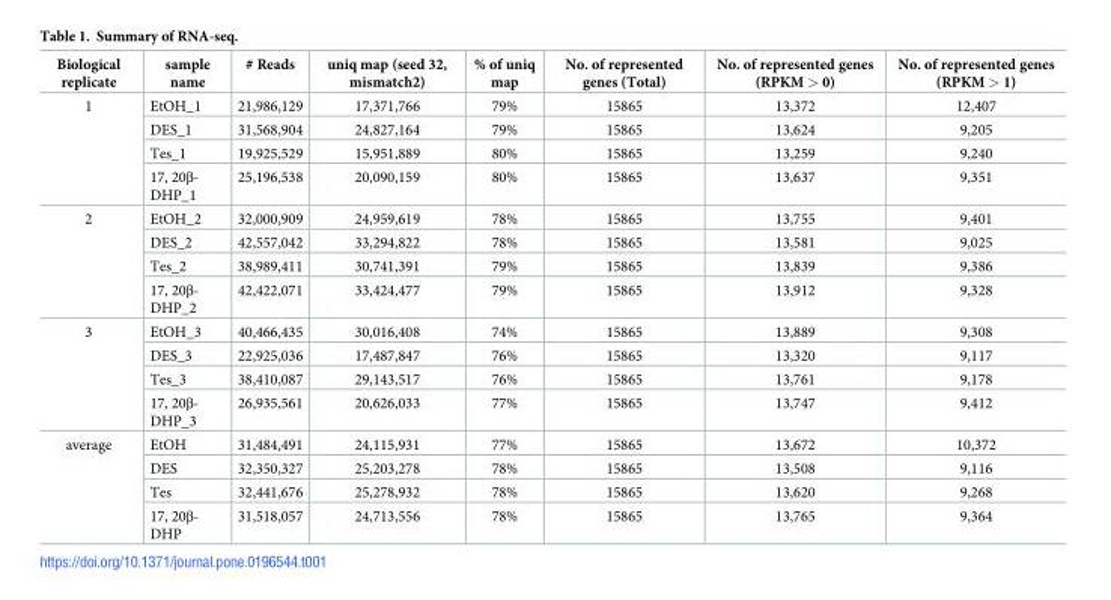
<table><thead><tr><td>Biological replicate</td><td>sample name</td><td># Reads</td><td>uniq map (seed 32, mismatch2)</td><td>% of uniq map</td><td>No. of represented genes (Total)</td><td>No. of represented genes (RPKM &gt; 0)</td><td>No. of represented genes (RPKM &gt; 1)</td></tr></thead><tbody><tr><td rowspan="4">1</td><td>EtOH_1</td><td>21,986,129</td><td>17,371,766</td><td>79%</td><td>15865</td><td>13,372</td><td>12,407</td></tr><tr><td>DES_1</td><td>31,568,904</td><td>24,827,164</td><td>79%</td><td>15865</td><td>13,624</td><td>9,205</td></tr><tr><td>Tes_1</td><td>19,925,529</td><td>15,951,889</td><td>80%</td><td>15865</td><td>13,259</td><td>9,240</td></tr><tr><td>17, 20β- DHP_1</td><td>25,196,538</td><td>20,090,159</td><td>80%</td><td>15865</td><td>13,637</td><td>9,351</td></tr><tr><td rowspan="4">2</td><td>EtOH_2</td><td>32,000,909</td><td>24,959,619</td><td>78%</td><td>15865</td><td>13,755</td><td>9,401</td></tr><tr><td>DES_2</td><td>42,557,042</td><td>33,294,822</td><td>78%</td><td>15865</td><td>13,581</td><td>9,025</td></tr><tr><td>Tes_2</td><td>38,989,411</td><td>30,741,391</td><td>79%</td><td>15865</td><td>13,839</td><td>9,386</td></tr><tr><td>17, 20β- DHP_2</td><td>42,422,071</td><td>33,424,477</td><td>79%</td><td>15865</td><td>13,912</td><td>9,328</td></tr><tr><td rowspan="4">3</td><td>EtOH_3</td><td>40,466,435</td><td>30,016,408</td><td>74%</td><td>15865</td><td>13,889</td><td>9,308</td></tr><tr><td>DES_3</td><td>22,925,036</td><td>17,487,847</td><td>76%</td><td>15865</td><td>13,320</td><td>9,117</td></tr><tr><td>Tes_3</td><td>38,410,087</td><td>29,143,517</td><td>76%</td><td>15865</td><td>13,761</td><td>9,178</td></tr><tr><td>17, 20β- DHP_3</td><td>26,935,561</td><td>20,626,033</td><td>77%</td><td>15865</td><td>13,747</td><td>9,412</td></tr><tr><td rowspan="4">average</td><td>EtOH</td><td>31,484,491</td><td>24,115,931</td><td>77%</td><td>15865</td><td>13,672</td><td>10,372</td></tr><tr><td>DES</td><td>32,350,327</td><td>25,203,278</td><td>78%</td><td>15865</td><td>13,508</td><td>9,116</td></tr><tr><td>Tes</td><td>32,441,676</td><td>25,278,932</td><td>78%</td><td>15865</td><td>13,620</td><td>9,268</td></tr><tr><td>17, 20β- DHP</td><td>31,518,057</td><td>24,713,556</td><td>78%</td><td>15865</td><td>13,765</td><td>9,364</td></tr></tbody></table>